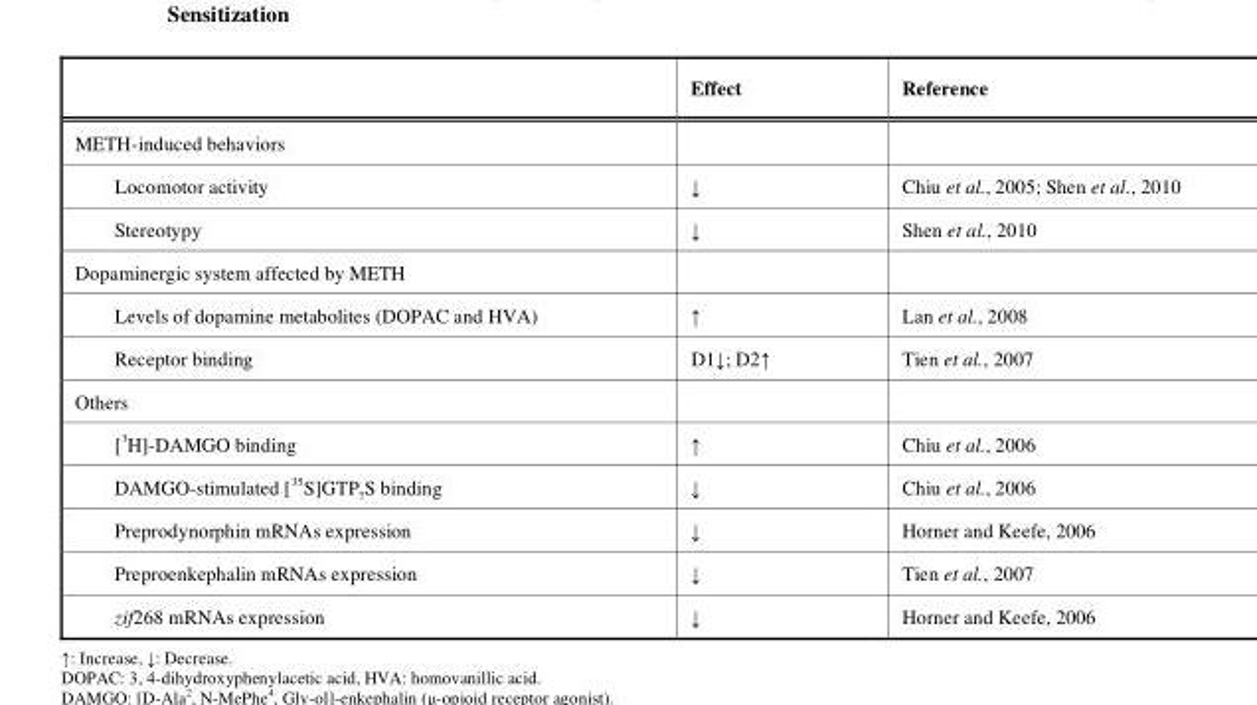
<table><thead><tr><td></td><td>Effect</td><td>Reference</td></tr></thead><tbody><tr><td colspan="3">METH-induced behaviors</td></tr><tr><td>Locomotor activity</td><td>↓</td><td>Chiu et al., 2005; Shen et al., 2010</td></tr><tr><td>Stereotypy</td><td>↓</td><td>Shen et al., 2010</td></tr><tr><td colspan="3">Dopaminergic system affected by METH</td></tr><tr><td>Levels of dopamine metabolites (DOPAC and HVA)</td><td>↑</td><td>Lan et al., 2008</td></tr><tr><td>Receptor binding</td><td>D1↓; D2↑</td><td>Tien et al., 2007</td></tr><tr><td colspan="3">Others</td></tr><tr><td>[<sup>3</sup>H]-DAMGO binding</td><td>↑</td><td>Chiu et al., 2006</td></tr><tr><td>DAMGO-stimulated [<sup>35</sup>S]GTP<sub>γ</sub>S binding</td><td>↓</td><td>Chiu et al., 2006</td></tr><tr><td>Preprodynorphin mRNAs expression</td><td>↓</td><td>Horner and Keefe, 2006</td></tr><tr><td>Preproenkephalin mRNAs expression</td><td>↓</td><td>Tien et al., 2007</td></tr><tr><td>zif268 mRNAs expression</td><td>↓</td><td>Horner and Keefe, 2006</td></tr></tbody></table>